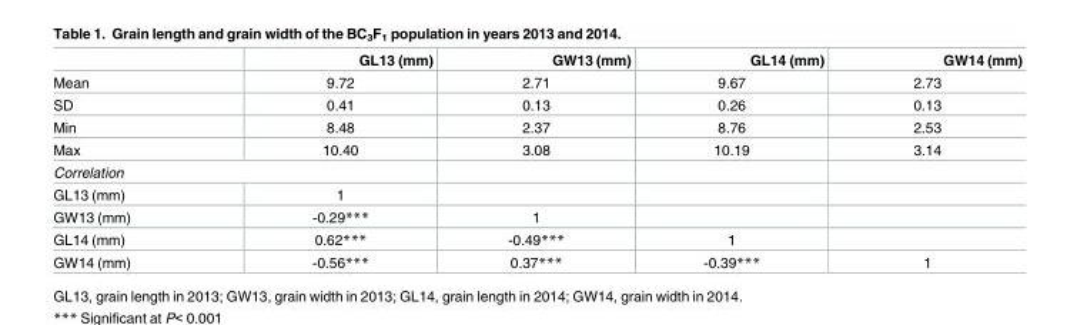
<table><thead><tr><td></td><td>GL13 (mm)</td><td>GW13 (mm)</td><td>GL14 (mm)</td><td>GW14 (mm)</td></tr></thead><tbody><tr><td>Mean</td><td>9.72</td><td>2.71</td><td>9.67</td><td>2.73</td></tr><tr><td>SD</td><td>0.41</td><td>0.13</td><td>0.26</td><td>0.13</td></tr><tr><td>Min</td><td>8.48</td><td>2.37</td><td>8.76</td><td>2.53</td></tr><tr><td>Max</td><td>10.40</td><td>3.08</td><td>10.19</td><td>3.14</td></tr><tr><td colspan="5">Correlation</td></tr><tr><td>GL13 (mm)</td><td>1</td><td></td><td></td><td></td></tr><tr><td>GW13 (mm)</td><td>-0.29***</td><td>1</td><td></td><td></td></tr><tr><td>GL14 (mm)</td><td>0.62***</td><td>-0.49***</td><td>1</td><td></td></tr><tr><td>GW14 (mm)</td><td>-0.56***</td><td>0.37***</td><td>-0.39***</td><td>1</td></tr></tbody></table>